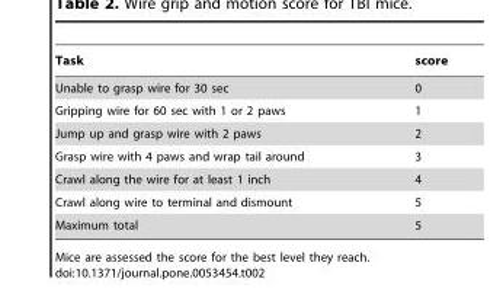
<table><thead><tr><td>Task</td><td>score</td></tr></thead><tbody><tr><td>Unable to grasp wire for 30 sec</td><td>0</td></tr><tr><td>Gripping wire for 60 sec with 1 or 2 paws</td><td>1</td></tr><tr><td>Jump up and grasp wire with 2 paws</td><td>2</td></tr><tr><td>Grasp wire with 4 paws and wrap tail around</td><td>3</td></tr><tr><td>Crawl along the wire for at least 1 inch</td><td>4</td></tr><tr><td>Crawl along wire to terminal and dismount</td><td>5</td></tr><tr><td>Maximum total</td><td>5</td></tr></tbody></table>